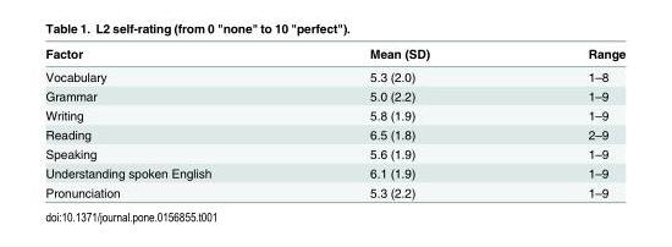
<table><thead><tr><td>Factor</td><td>Mean (SD)</td><td>Range</td></tr></thead><tbody><tr><td>Vocabulary</td><td>5.3 (2.0)</td><td>1–8</td></tr><tr><td>Grammar</td><td>5.0 (2.2)</td><td>1–9</td></tr><tr><td>Writing</td><td>5.8 (1.9)</td><td>1–9</td></tr><tr><td>Reading</td><td>6.5 (1.8)</td><td>2–9</td></tr><tr><td>Speaking</td><td>5.6 (1.9)</td><td>1–9</td></tr><tr><td>Understanding spoken English</td><td>6.1 (1.9)</td><td>1–9</td></tr><tr><td>Pronunciation</td><td>5.3 (2.2)</td><td>1–9</td></tr></tbody></table>